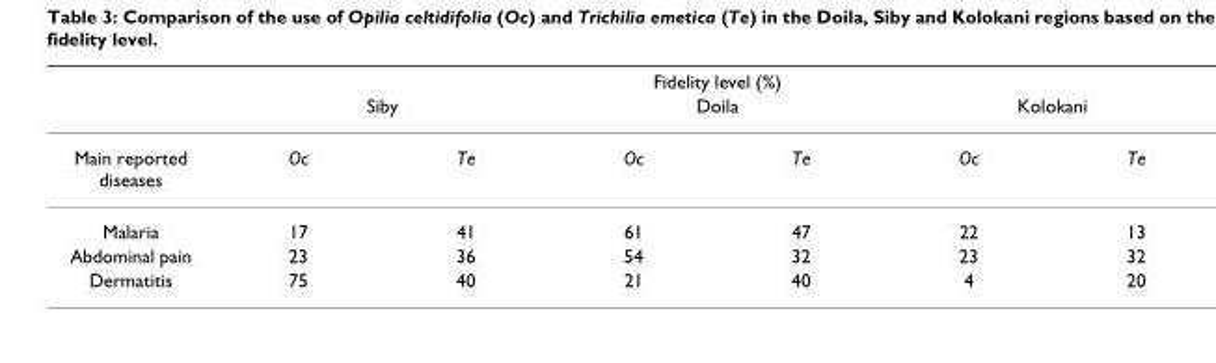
<table><thead><tr><td rowspan="3">Main reported diseases</td><td colspan="6">Fidelity level (%)</td></tr><tr><td colspan="2">Siby</td><td colspan="2">Doila</td><td colspan="2">Kolokani</td></tr><tr><td>Oc</td><td>Te</td><td>Oc</td><td>Te</td><td>Oc</td><td>Te</td></tr></thead><tbody><tr><td>Malaria</td><td>17</td><td>41</td><td>61</td><td>47</td><td>22</td><td>13</td></tr><tr><td>Abdominal pain</td><td>23</td><td>36</td><td>54</td><td>32</td><td>23</td><td>32</td></tr><tr><td>Dermatitis</td><td>75</td><td>40</td><td>21</td><td>40</td><td>4</td><td>20</td></tr></tbody></table>